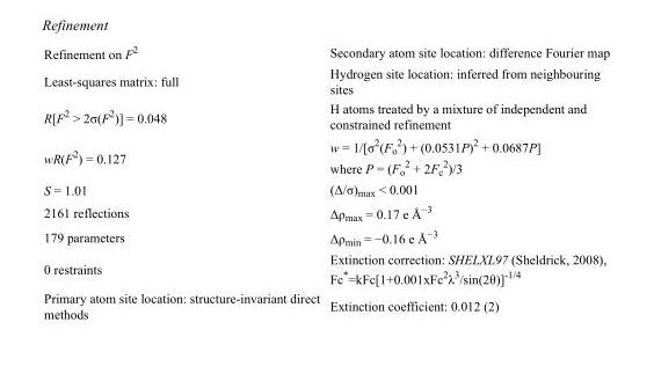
<table><tbody><tr><td>Refinement on F<sup>2</sup></td><td>Secondary atom site location: difference Fourier map</td></tr><tr><td>Least-squares matrix: full</td><td>Hydrogen site location: inferred from neighbouring sites</td></tr><tr><td>R[F<sup>2</sup> &gt; 2σ(F<sup>2</sup>)] = 0.048</td><td>H atoms treated by a mixture of independent and constrained refinement</td></tr><tr><td>wR(F<sup>2</sup>) = 0.127</td><td>w = 1/[σ<sup>2</sup>(F<sub>o</sub> <sup>2</sup>) + (0.0531P)<sup>2</sup> + 0.0687P] where P = (F<sub>o</sub> <sup>2</sup> + 2F<sub>c</sub> <sup>2</sup>)/3</td></tr><tr><td>S = 1.01</td><td>(Δ/σ)<sub>max</sub> &lt; 0.001</td></tr><tr><td>2161 reflections</td><td>Δρ<sub>max</sub> = 0.17 e Å<sup>−3</sup></td></tr><tr><td>179 parameters</td><td>Δρ<sub>min</sub> = −0.16 e Å<sup>−3</sup></td></tr><tr><td>0 restraints</td><td>Extinction correction: SHELXL97 (Sheldrick, 2008), Fc*=kFc[1+0.001xFc<sup>2</sup>λ<sup>3</sup>/sin(2θ)]<sup>-1/4</sup></td></tr><tr><td>Primary atom site location: structure-invariant direct methods</td><td>Extinction coefficient: 0.012 (2)</td></tr></tbody></table>